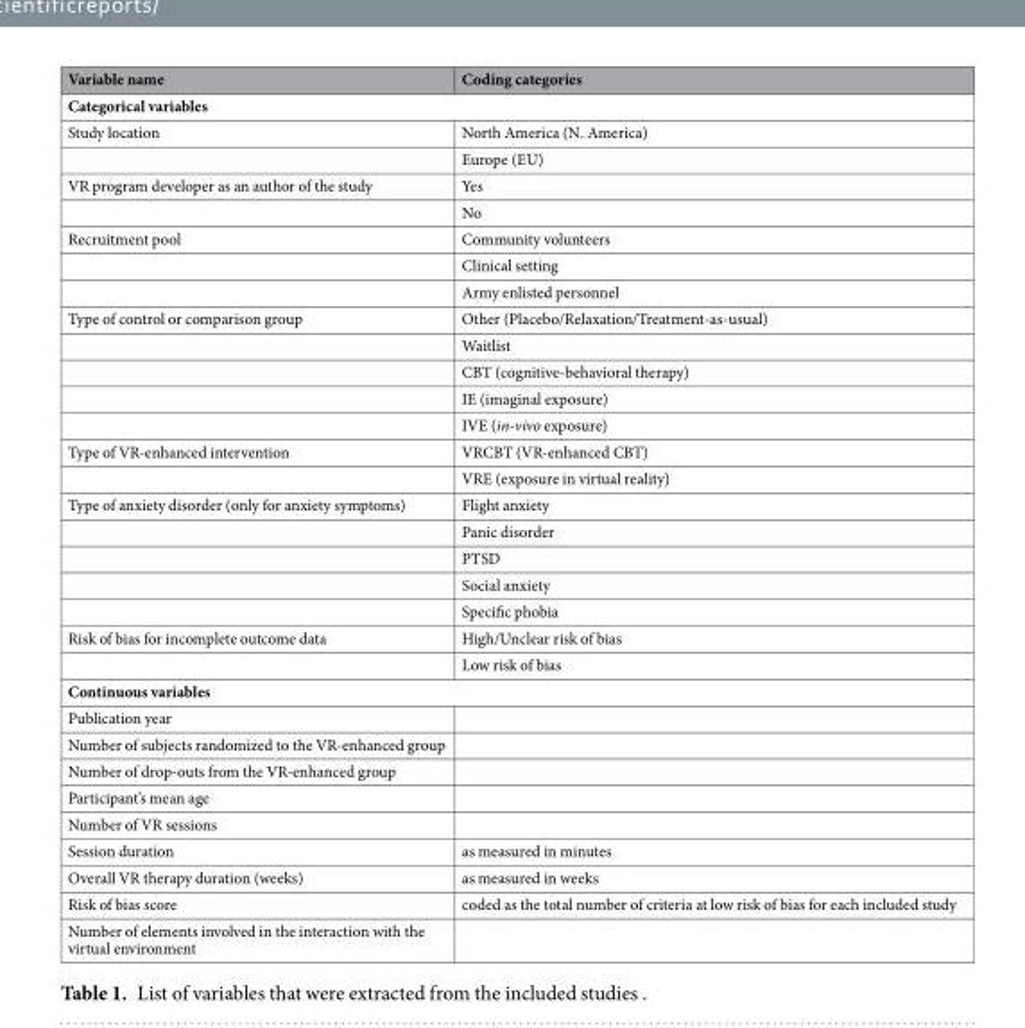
<table><thead><tr><td>Variable name</td><td>Coding categories</td></tr></thead><tbody><tr><td colspan="2">Categorical variables</td></tr><tr><td rowspan="2">Study location</td><td>North America (N. America)</td></tr><tr><td>Europe (EU)</td></tr><tr><td rowspan="2">VR program developer as an author of the study</td><td>Yes</td></tr><tr><td>No</td></tr><tr><td rowspan="3">Recruitment pool</td><td>Community volunteers</td></tr><tr><td>Clinical setting</td></tr><tr><td>Army enlisted personnel</td></tr><tr><td rowspan="5">Type of control or comparison group</td><td>Other (Placebo/Relaxation/Treatment-as-usual)</td></tr><tr><td>Waitlist</td></tr><tr><td>CBT (cognitive-behavioral therapy)</td></tr><tr><td>IE (imaginal exposure)</td></tr><tr><td>IVE (in-vivo exposure)</td></tr><tr><td rowspan="2">Type of VR-enhanced intervention</td><td>VRCBT (VR-enhanced CBT)</td></tr><tr><td>VRE (exposure in virtual reality)</td></tr><tr><td rowspan="5">Type of anxiety disorder (only for anxiety symptoms)</td><td>Flight anxiety</td></tr><tr><td>Panic disorder</td></tr><tr><td>PTSD</td></tr><tr><td>Social anxiety</td></tr><tr><td>Specific phobia</td></tr><tr><td rowspan="2">Risk of bias for incomplete outcome data</td><td>High/Unclear risk of bias</td></tr><tr><td>Low risk of bias</td></tr><tr><td colspan="2">Continuous variables</td></tr><tr><td colspan="2">Publication year</td></tr><tr><td colspan="2">Number of subjects randomized to the VR-enhanced group</td></tr><tr><td colspan="2">Number of drop-outs from the VR-enhanced group</td></tr><tr><td colspan="2">Participant’s mean age</td></tr><tr><td colspan="2">Number of VR sessions</td></tr><tr><td>Session duration</td><td>as measured in minutes</td></tr><tr><td>Overall VR therapy duration (weeks)</td><td>as measured in weeks</td></tr><tr><td>Risk of bias score</td><td>coded as the total number of criteria at low risk of bias for each included study</td></tr><tr><td>Number of elements involved in the interaction with the virtual environment</td><td></td></tr></tbody></table>